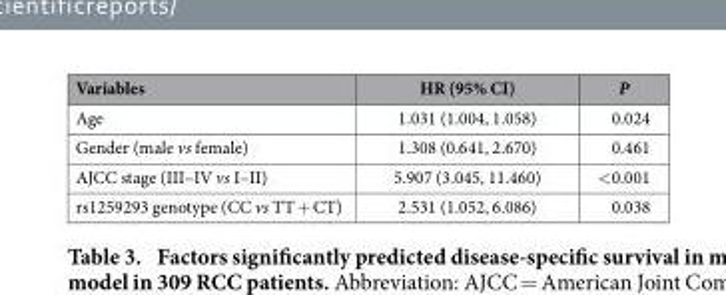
<table><thead><tr><td>Variables</td><td>HR (95% CI)</td><td>P</td></tr></thead><tbody><tr><td>Age</td><td>1.031 (1.004, 1.058)</td><td>0.024</td></tr><tr><td>Gender (male vs female)</td><td>1.308 (0.641, 2.670)</td><td>0.461</td></tr><tr><td>AJCC stage (III–IV vs I–II)</td><td>5.907 (3.045, 11.460)</td><td>&lt; 0.001</td></tr><tr><td>rs1259293 genotype (CC vs TT + CT)</td><td>2.531 (1.052, 6.086)</td><td>0.038</td></tr></tbody></table>